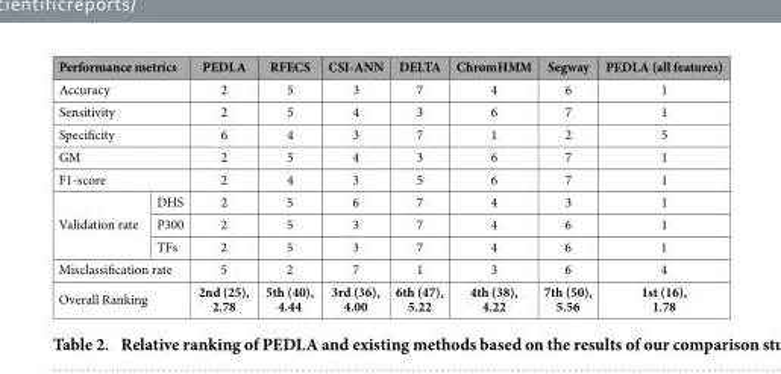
<table><thead><tr><td colspan="2">Performance metrics</td><td>PEDLA</td><td>RFECS</td><td>CSI-ANN</td><td>DELTA</td><td>ChromHMM</td><td>Segway</td><td>PEDLA (all features)</td></tr></thead><tbody><tr><td colspan="2">Accuracy</td><td>2</td><td>5</td><td>3</td><td>7</td><td>4</td><td>6</td><td>1</td></tr><tr><td colspan="2">Sensitivity</td><td>2</td><td>5</td><td>4</td><td>3</td><td>6</td><td>7</td><td>1</td></tr><tr><td colspan="2">Specificity</td><td>6</td><td>4</td><td>3</td><td>7</td><td>1</td><td>2</td><td>5</td></tr><tr><td colspan="2">GM</td><td>2</td><td>5</td><td>4</td><td>3</td><td>6</td><td>7</td><td>1</td></tr><tr><td colspan="2">F1-score</td><td>2</td><td>4</td><td>3</td><td>5</td><td>6</td><td>7</td><td>1</td></tr><tr><td rowspan="3">Validation rate</td><td>DHS</td><td>2</td><td>5</td><td>6</td><td>7</td><td>4</td><td>3</td><td>1</td></tr><tr><td>P300</td><td>2</td><td>5</td><td>3</td><td>7</td><td>4</td><td>6</td><td>1</td></tr><tr><td>TFs</td><td>2</td><td>5</td><td>3</td><td>7</td><td>4</td><td>6</td><td>1</td></tr><tr><td colspan="2">Misclassification rate</td><td>5</td><td>2</td><td>7</td><td>1</td><td>3</td><td>6</td><td>4</td></tr><tr><td colspan="2">Overall Ranking</td><td>2nd (25), 2.78</td><td>5th (40), 4.44</td><td>3rd (36), 4.00</td><td>6th (47), 5.22</td><td>4th (38), 4.22</td><td>7th (50), 5.56</td><td>1st (16), 1.78</td></tr></tbody></table>